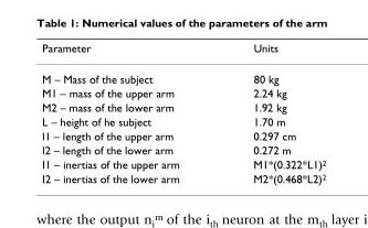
<table><thead><tr><td>Parameter</td><td>Units</td></tr></thead><tbody><tr><td>M – Mass of the subject</td><td>80 kg</td></tr><tr><td>M1 – mass of the upper arm</td><td>2.24 kg</td></tr><tr><td>M2 – mass of the lower arm</td><td>1.92 kg</td></tr><tr><td>L – height of he subject</td><td>1.70 m</td></tr><tr><td>l1 – length of the upper arm</td><td>0.297 cm</td></tr><tr><td>l2 – length of the lower arm</td><td>0.272 m</td></tr><tr><td>I1 – inertias of the upper arm</td><td>M1*(0.322*L1)<sup>2</sup></td></tr><tr><td>I2 – inertias of the lower arm</td><td>M2*(0.468*L2)<sup>2</sup></td></tr></tbody></table>